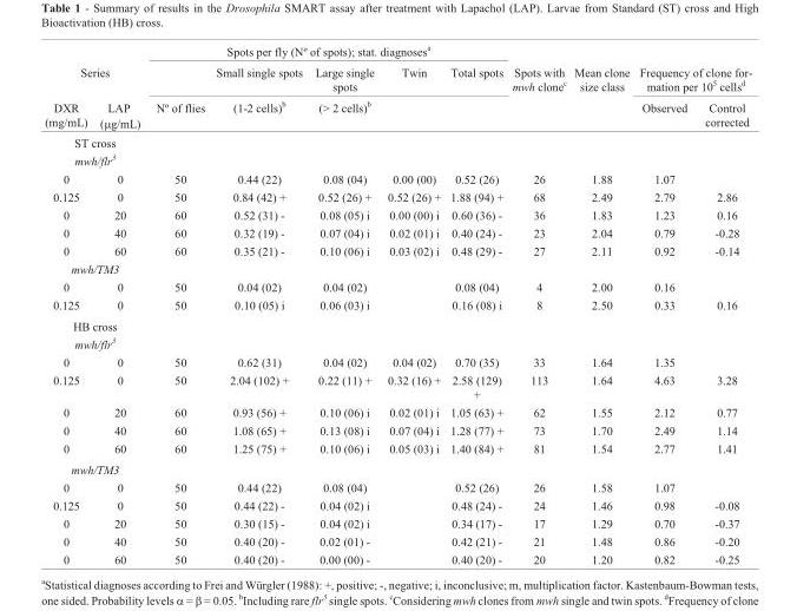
<table><thead><tr><td></td><td></td><td colspan="5">Spots per fly (Nº of spots); stat. diagnoses<sup>a</sup></td><td rowspan="3">Spots with mwh clone<sup>c</sup></td><td rowspan="3">Mean clone size class</td><td></td><td></td></tr><tr><td colspan="2">Series</td><td rowspan="2">Nº of flies</td><td rowspan="2">Small single spots (1-2 cells)<sup>b</sup></td><td rowspan="2">Large single spots (&gt; 2 cells)<sup>b</sup></td><td rowspan="2">Twin</td><td rowspan="2">Total spots</td><td colspan="2">Frequency of clone for- mation per 105 cellsd</td></tr><tr><td>DXR (mg/mL)</td><td>LAP (μg/mL)</td><td>Observed</td><td>Control corrected</td></tr></thead><tbody><tr><td colspan="11">ST cross</td></tr><tr><td colspan="11">mwh/flr<sup>3</sup></td></tr><tr><td>0</td><td>0</td><td>50</td><td>0.44 (22)</td><td>0.08 (04)</td><td>0.00 (00)</td><td>0.52 (26)</td><td>26</td><td>1.88</td><td>1.07</td><td></td></tr><tr><td>0.125</td><td>0</td><td>50</td><td>0.84 (42) +</td><td>0.52 (26) +</td><td>0.52 (26) +</td><td>1.88 (94) +</td><td>68</td><td>2.49</td><td>2.79</td><td>2.86</td></tr><tr><td>0</td><td>20</td><td>60</td><td>0.52 (31) -</td><td>0.08 (05) i</td><td>0.00 (00) i</td><td>0.60 (36) -</td><td>36</td><td>1.83</td><td>1.23</td><td>0.16</td></tr><tr><td>0</td><td>40</td><td>60</td><td>0.32 (19) -</td><td>0.07 (04) i</td><td>0.02 (01) i</td><td>0.40 (24) -</td><td>23</td><td>2.04</td><td>0.79</td><td>-0.28</td></tr><tr><td>0</td><td>60</td><td>60</td><td>0.35 (21) -</td><td>0.10 (06) i</td><td>0.03 (02) i</td><td>0.48 (29) -</td><td>27</td><td>2.11</td><td>0.92</td><td>-0.14</td></tr><tr><td colspan="11">mwh/TM3</td></tr><tr><td>0</td><td>0</td><td>50</td><td>0.04 (02)</td><td>0.04 (02)</td><td></td><td>0.08 (04)</td><td>4</td><td>2.00</td><td>0.16</td><td></td></tr><tr><td>0.125</td><td>0</td><td>50</td><td>0.10 (05) i</td><td>0.06 (03) i</td><td></td><td>0.16 (08) i</td><td>8</td><td>2.50</td><td>0.33</td><td>0.16</td></tr><tr><td colspan="11">HB cross</td></tr><tr><td colspan="11">mwh/flr<sup>3</sup></td></tr><tr><td>0</td><td>0</td><td>50</td><td>0.62 (31)</td><td>0.04 (02)</td><td>0.04 (02)</td><td>0.70 (35)</td><td>33</td><td>1.64</td><td>1.35</td><td></td></tr><tr><td>0.125</td><td>0</td><td>50</td><td>2.04 (102) +</td><td>0.22 (11) +</td><td>0.32 (16) +</td><td>2.58 (129) +</td><td>113</td><td>1.64</td><td>4.63</td><td>3.28</td></tr><tr><td>0</td><td>20</td><td>60</td><td>0.93 (56) +</td><td>0.10 (06) i</td><td>0.02 (01) i</td><td>1.05 (63) +</td><td>62</td><td>1.55</td><td>2.12</td><td>0.77</td></tr><tr><td>0</td><td>40</td><td>60</td><td>1.08 (65) +</td><td>0.13 (08) i</td><td>0.07 (04) i</td><td>1.28 (77) +</td><td>73</td><td>1.70</td><td>2.49</td><td>1.14</td></tr><tr><td>0</td><td>60</td><td>60</td><td>1.25 (75) +</td><td>0.10 (06) i</td><td>0.05 (03) i</td><td>1.40 (84) +</td><td>81</td><td>1.54</td><td>2.77</td><td>1.41</td></tr><tr><td colspan="11">mwh/TM3</td></tr><tr><td>0</td><td>0</td><td>50</td><td>0.44 (22)</td><td>0.08 (04)</td><td></td><td>0.52 (26)</td><td>26</td><td>1.58</td><td>1.07</td><td></td></tr><tr><td>0.125</td><td>0</td><td>50</td><td>0.44 (22) -</td><td>0.04 (02) i</td><td></td><td>0.48 (24) -</td><td>24</td><td>1.46</td><td>0.98</td><td>-0.08</td></tr><tr><td>0</td><td>20</td><td>50</td><td>0.30 (15) -</td><td>0.04 (02) i</td><td></td><td>0.34 (17) -</td><td>17</td><td>1.29</td><td>0.70</td><td>-0.37</td></tr><tr><td>0</td><td>40</td><td>50</td><td>0.40 (20) -</td><td>0.02 (01) -</td><td></td><td>0.42 (21) -</td><td>21</td><td>1.48</td><td>0.86</td><td>-0.20</td></tr><tr><td>0</td><td>60</td><td>50</td><td>0.40 (20) -</td><td>0.00 (00) -</td><td></td><td>0.40 (20) -</td><td>20</td><td>1.20</td><td>0.82</td><td>-0.25</td></tr></tbody></table>